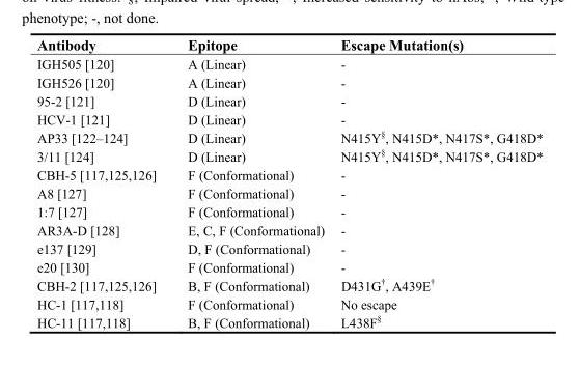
<table><thead><tr><td>Antibody</td><td>Epitope</td><td>Escape Mutation(s)</td></tr></thead><tbody><tr><td>IGH505 [120]</td><td>A (Linear)</td><td>-</td></tr><tr><td>IGH526 [120]</td><td>A (Linear)</td><td>-</td></tr><tr><td>95-2 [121]</td><td>D (Linear)</td><td>-</td></tr><tr><td>HCV-1 [121]</td><td>D (Linear)</td><td>-</td></tr><tr><td>AP33 [122–124]</td><td>D (Linear)</td><td>N415Y<sup>§</sup>, N415D*, N417S*, G418D*</td></tr><tr><td>3/11 [124]</td><td>D (Linear)</td><td>N415Y<sup>§</sup>, N415D*, N417S*, G418D*</td></tr><tr><td>CBH-5 [117,125,126]</td><td>F (Conformational)</td><td>-</td></tr><tr><td>A8 [127]</td><td>F (Conformational)</td><td>-</td></tr><tr><td>1:7 [127]</td><td>F (Conformational)</td><td>-</td></tr><tr><td>AR3A-D [128]</td><td>E, C, F (Conformational)</td><td>-</td></tr><tr><td>e137 [129]</td><td>D, F (Conformational)</td><td>-</td></tr><tr><td>e20 [130]</td><td>F (Conformational)</td><td>-</td></tr><tr><td>CBH-2 [117,125,126]</td><td>B, F (Conformational)</td><td>D431G<sup>†</sup>, A439E<sup>†</sup></td></tr><tr><td>HC-1 [117,118]</td><td>F (Conformational)</td><td>No escape</td></tr><tr><td>HC-11 [117,118]</td><td>B, F (Conformational)</td><td>L438F<sup>§</sup></td></tr></tbody></table>